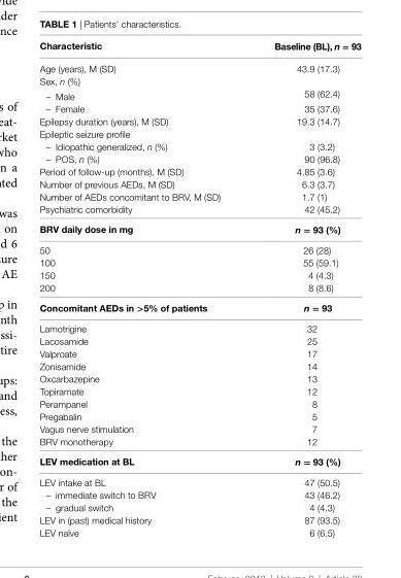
<table><thead><tr><td>characteristic</td><td>Baseline (Bl), n = 93</td></tr></thead><tbody><tr><td>Age (years), M (SD)</td><td>43.9 (17.3)</td></tr><tr><td colspan="2">Sex, n (%)</td></tr><tr><td>– Male</td><td>58 (62.4)</td></tr><tr><td>– Female</td><td>35 (37.6)</td></tr><tr><td>Epilepsy duration (years), M (SD)</td><td>19.3 (14.7)</td></tr><tr><td colspan="2">Epileptic seizure profile</td></tr><tr><td>– Idiopathic generalized, n (%)</td><td>3 (3.2)</td></tr><tr><td>– POS, n (%)</td><td>90 (96.8)</td></tr><tr><td>Period of follow-up (months), M (SD)</td><td>4.85 (3.6)</td></tr><tr><td>Number of previous AEDs, M (SD)</td><td>6.3 (3.7)</td></tr><tr><td>Number of AEDs concomitant to BRV, M (SD)</td><td>1.7 (1)</td></tr><tr><td>Psychiatric comorbidity</td><td>42 (45.2)</td></tr><tr><td>BrV daily dose in mg</td><td>n = 93 (%)</td></tr><tr><td>50</td><td>26 (28)</td></tr><tr><td>100</td><td>55 (59.1)</td></tr><tr><td>150</td><td>4 (4.3)</td></tr><tr><td>200</td><td>8 (8.6)</td></tr><tr><td>concomitant aeDs in &gt;5% of patients</td><td>n = 93</td></tr><tr><td>Lamotrigine</td><td>32</td></tr><tr><td>Lacosamide</td><td>25</td></tr><tr><td>Valproate</td><td>17</td></tr><tr><td>Zonisamide</td><td>14</td></tr><tr><td>Oxcarbazepine</td><td>13</td></tr><tr><td>Topiramate</td><td>12</td></tr><tr><td>Perampanel</td><td>8</td></tr><tr><td>Pregabalin</td><td>5</td></tr><tr><td>Vagus nerve stimulation</td><td>7</td></tr><tr><td>BRV monotherapy</td><td>12</td></tr><tr><td>leV medication at Bl</td><td>n = 93 (%)</td></tr><tr><td>LEV intake at BL</td><td>47 (50.5)</td></tr><tr><td>– immediate switch to BRV</td><td>43 (46.2)</td></tr><tr><td>– gradual switch</td><td>4 (4.3)</td></tr><tr><td>LEV in (past) medical history</td><td>87 (93.5)</td></tr><tr><td>LEV naïve</td><td>6 (6.5)</td></tr></tbody></table>